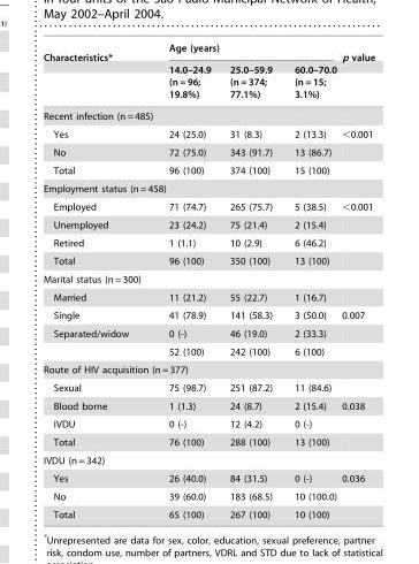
<table><thead><tr><td rowspan="3">Characteristics*</td><td colspan="3">Age (years)</td><td rowspan="3">p value</td></tr><tr><td rowspan="2">14.0–24.9 (n = 96; 19.8%)</td><td rowspan="2">25.0–59.9 (n = 374; 77.1%)</td><td rowspan="2">60.0–70.0 (n = 15; 3.1%)</td></tr><tr></tr></thead><tbody><tr><td colspan="5">Recent infection (n = 485)</td></tr><tr><td>Yes</td><td>24 (25.0)</td><td>31 (8.3)</td><td>2 (13.3)</td><td>&lt;0.001</td></tr><tr><td>No</td><td>72 (75.0)</td><td>343 (91.7)</td><td>13 (86.7)</td><td></td></tr><tr><td>Total</td><td>96 (100)</td><td>374 (100)</td><td>15 (100)</td><td></td></tr><tr><td colspan="5">Employment status (n = 458)</td></tr><tr><td>Employed</td><td>71 (74.7)</td><td>265 (75.7)</td><td>5 (38.5)</td><td>&lt;0.001</td></tr><tr><td>Unemployed</td><td>23 (24.2)</td><td>75 (21.4)</td><td>2 (15.4)</td><td></td></tr><tr><td>Retired</td><td>1 (1.1)</td><td>10 (2.9)</td><td>6 (46.2)</td><td></td></tr><tr><td>Total</td><td>96 (100)</td><td>350 (100)</td><td>13 (100)</td><td></td></tr><tr><td colspan="5">Marital status (n = 300)</td></tr><tr><td>Married</td><td>11 (21.2)</td><td>55 (22.7)</td><td>1 (16.7)</td><td></td></tr><tr><td>Single</td><td>41 (78.9)</td><td>141 (58.3)</td><td>3 (50.0)</td><td>0.007</td></tr><tr><td rowspan="2">Separated/widow</td><td>0 (-)</td><td>46 (19.0)</td><td>2 (33.3)</td><td></td></tr><tr><td>52 (100)</td><td>242 (100)</td><td>6 (100)</td><td></td></tr><tr><td colspan="5">Route of HIV acquisition (n = 377)</td></tr><tr><td>Sexual</td><td>75 (98.7)</td><td>251 (87.2)</td><td>11 (84.6)</td><td></td></tr><tr><td>Blood borne</td><td>1 (1.3)</td><td>24 (8.7)</td><td>2 (15.4)</td><td>0.038</td></tr><tr><td>IVDU</td><td>0 (-)</td><td>12 (4.2)</td><td>0 (-)</td><td></td></tr><tr><td>Total</td><td>76 (100)</td><td>288 (100)</td><td>13 (100)</td><td></td></tr><tr><td colspan="5">IVDU (n = 342)</td></tr><tr><td>Yes</td><td>26 (40.0)</td><td>84 (31.5)</td><td>0 (-)</td><td>0.036</td></tr><tr><td>No</td><td>39 (60.0)</td><td>183 (68.5)</td><td>10 (100.0)</td><td></td></tr><tr><td>Total</td><td>65 (100)</td><td>267 (100)</td><td>10 (100)</td><td></td></tr></tbody></table>